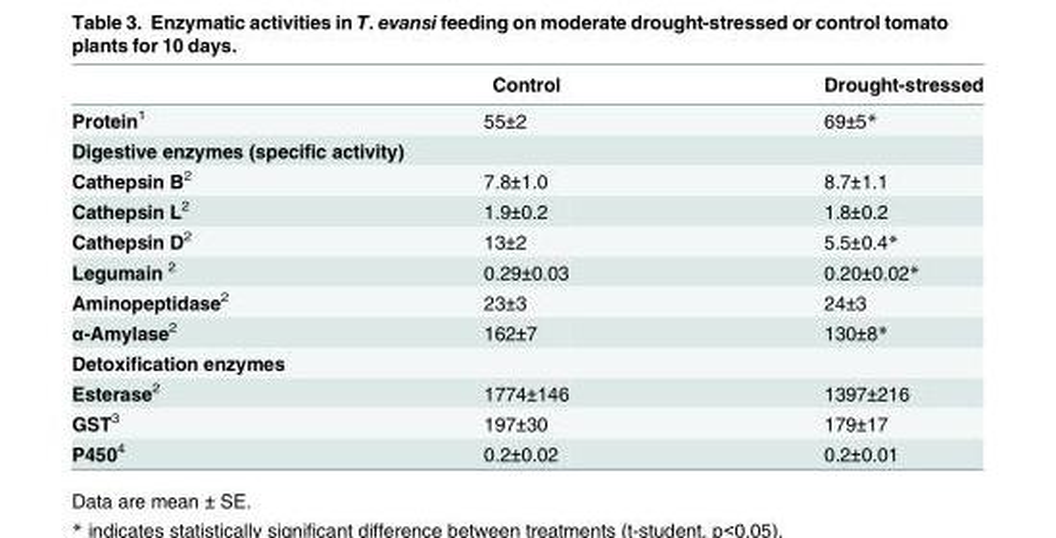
<table><thead><tr><td></td><td>Control</td><td>Drought-stressed</td></tr></thead><tbody><tr><td>Protein<sup>1</sup></td><td>55±2</td><td>69±5*</td></tr><tr><td colspan="3">Digestive enzymes (specific activity)</td></tr><tr><td>Cathepsin B<sup>2</sup></td><td>7.8±1.0</td><td>8.7±1.1</td></tr><tr><td>Cathepsin L<sup>2</sup></td><td>1.9±0.2</td><td>1.8±0.2</td></tr><tr><td>Cathepsin D<sup>2</sup></td><td>13±2</td><td>5.5±0.4*</td></tr><tr><td>Legumain <sup>2</sup></td><td>0.29±0.03</td><td>0.20±0.02*</td></tr><tr><td>Aminopeptidase<sup>2</sup></td><td>23±3</td><td>24±3</td></tr><tr><td>α-Amylase<sup>2</sup></td><td>162±7</td><td>130±8*</td></tr><tr><td colspan="3">Detoxification enzymes</td></tr><tr><td>Esterase<sup>2</sup></td><td>1774±146</td><td>1397±216</td></tr><tr><td>GST<sup>3</sup></td><td>197±30</td><td>179±17</td></tr><tr><td>P450<sup>4</sup></td><td>0.2±0.02</td><td>0.2±0.01</td></tr></tbody></table>